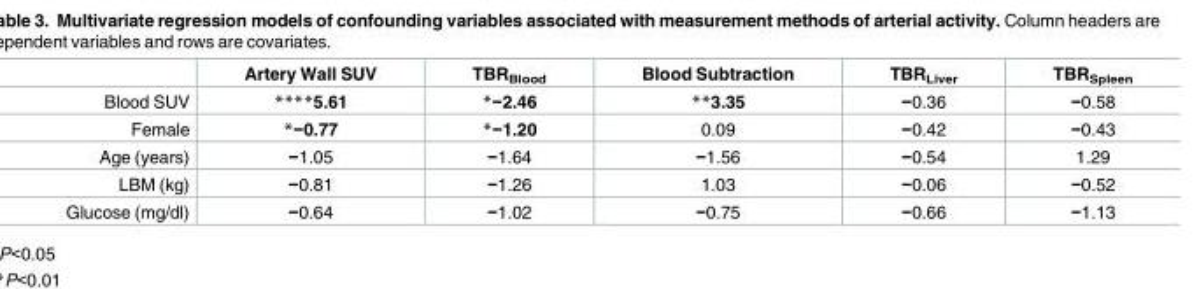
<table><thead><tr><td></td><td>Artery Wall SUV</td><td>TBR<sub>Blood</sub></td><td>Blood Subtraction</td><td>TBR<sub>Liver</sub></td><td>TBR<sub>Spleen</sub></td></tr></thead><tbody><tr><td>Blood SUV</td><td>****5.61</td><td>*−2.46</td><td>**3.35</td><td>−0.36</td><td>−0.58</td></tr><tr><td>Female</td><td>*−0.77</td><td>*−1.20</td><td>0.09</td><td>−0.42</td><td>−0.43</td></tr><tr><td>Age (years)</td><td>−1.05</td><td>−1.64</td><td>−1.56</td><td>−0.54</td><td>1.29</td></tr><tr><td>LBM (kg)</td><td>−0.81</td><td>−1.26</td><td>1.03</td><td>−0.06</td><td>−0.52</td></tr><tr><td>Glucose (mg/dl)</td><td>−0.64</td><td>−1.02</td><td>−0.75</td><td>−0.66</td><td>−1.13</td></tr></tbody></table>